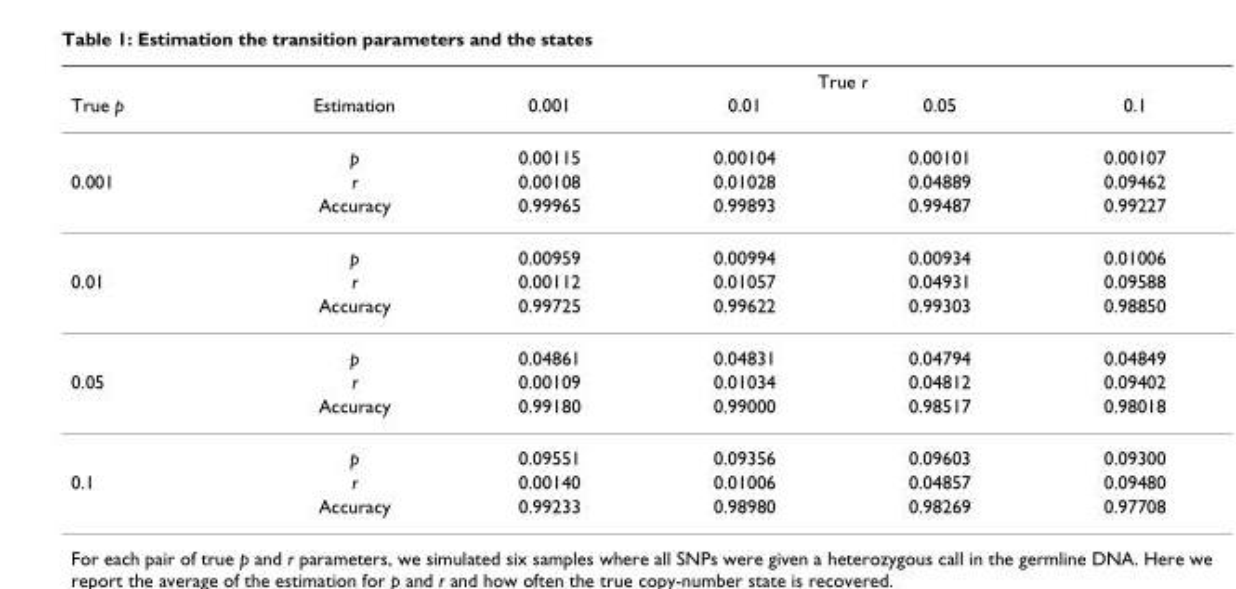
<table><thead><tr><td rowspan="2">True p</td><td rowspan="2">Estimation</td><td colspan="4">True r</td></tr><tr><td>0.001</td><td>0.01</td><td>0.05</td><td>0.1</td></tr></thead><tbody><tr><td></td><td>p</td><td>0.00115</td><td>0.00104</td><td>0.00101</td><td>0.00107</td></tr><tr><td rowspan="3">0.001</td><td>r</td><td>0.00108</td><td>0.01028</td><td>0.04889</td><td>0.09462</td></tr><tr><td>Accuracy</td><td>0.99965</td><td>0.99893</td><td>0.99487</td><td>0.99227</td></tr><tr><td>p</td><td>0.00959</td><td>0.00994</td><td>0.00934</td><td>0.01006</td></tr><tr><td rowspan="3">0.01</td><td>r</td><td>0.00112</td><td>0.01057</td><td>0.04931</td><td>0.09588</td></tr><tr><td>Accuracy</td><td>0.99725</td><td>0.99622</td><td>0.99303</td><td>0.98850</td></tr><tr><td>p</td><td>0.04861</td><td>0.04831</td><td>0.04794</td><td>0.04849</td></tr><tr><td rowspan="3">0.05</td><td>r</td><td>0.00109</td><td>0.01034</td><td>0.04812</td><td>0.09402</td></tr><tr><td>Accuracy</td><td>0.99180</td><td>0.99000</td><td>0.98517</td><td>0.98018</td></tr><tr><td>p</td><td>0.09551</td><td>0.09356</td><td>0.09603</td><td>0.09300</td></tr><tr><td rowspan="2">0.1</td><td>r</td><td>0.00140</td><td>0.01006</td><td>0.04857</td><td>0.09480</td></tr><tr><td>Accuracy</td><td>0.99233</td><td>0.98980</td><td>0.98269</td><td>0.97708</td></tr></tbody></table>